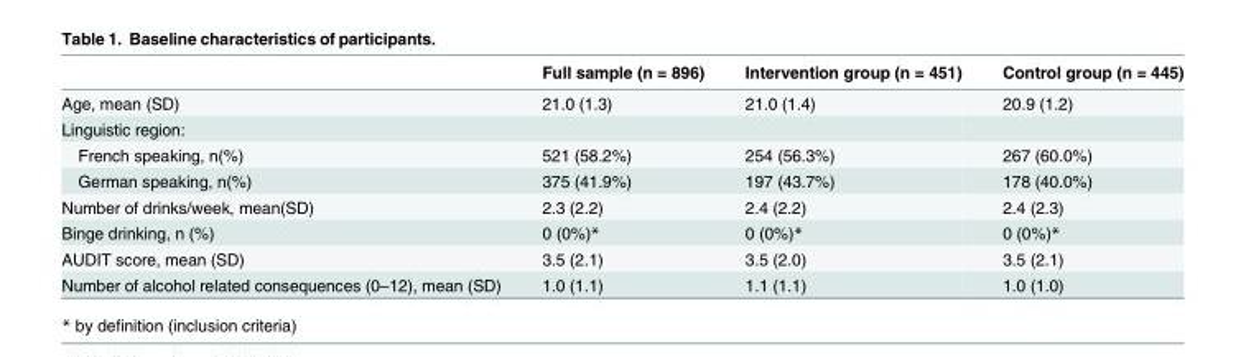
<table><thead><tr><td></td><td>Full sample (n = 896)</td><td>Intervention group (n = 451)</td><td>Control group (n = 445)</td></tr></thead><tbody><tr><td>Age, mean (SD)</td><td>21.0 (1.3)</td><td>21.0 (1.4)</td><td>20.9 (1.2)</td></tr><tr><td colspan="4">Linguistic region:</td></tr><tr><td>French speaking, n(%)</td><td>521 (58.2%)</td><td>254 (56.3%)</td><td>267 (60.0%)</td></tr><tr><td>German speaking, n(%)</td><td>375 (41.9%)</td><td>197 (43.7%)</td><td>178 (40.0%)</td></tr><tr><td>Number of drinks/week, mean(SD)</td><td>2.3 (2.2)</td><td>2.4 (2.2)</td><td>2.4 (2.3)</td></tr><tr><td>Binge drinking, n (%)</td><td>0 (0%)*</td><td>0 (0%)*</td><td>0 (0%)*</td></tr><tr><td>AUDIT score, mean (SD)</td><td>3.5 (2.1)</td><td>3.5 (2.0)</td><td>3.5 (2.1)</td></tr><tr><td>Number of alcohol related consequences (0–12), mean (SD)</td><td>1.0 (1.1)</td><td>1.1 (1.1)</td><td>1.0 (1.0)</td></tr></tbody></table>